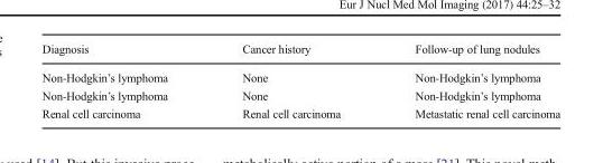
<table><thead><tr><td>Diagnosis</td><td>Cancer history</td><td>Follow-up of lung nodules</td></tr></thead><tbody><tr><td>Non-Hodgkin’s lymphoma</td><td>None</td><td>Non-Hodgkin’s lymphoma</td></tr><tr><td>Non-Hodgkin’s lymphoma</td><td>None</td><td>Non-Hodgkin’s lymphoma</td></tr><tr><td>Renal cell carcinoma</td><td>Renal cell carcinoma</td><td>Metastatic renal cell carcinoma</td></tr></tbody></table>